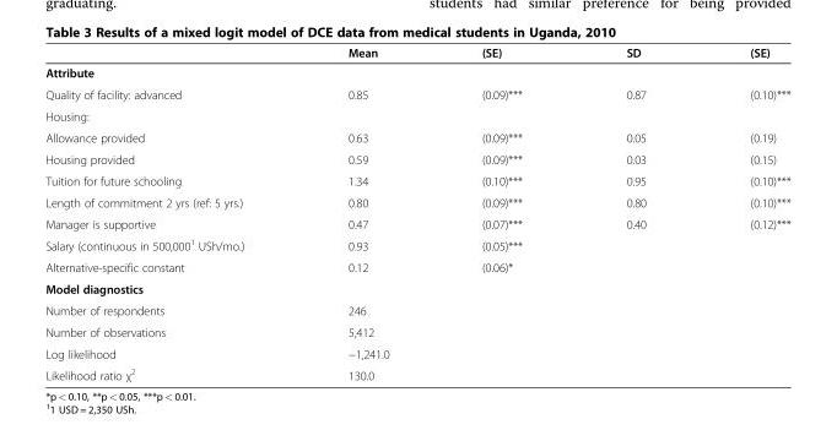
<table><thead><tr><td></td><td>Mean</td><td>(SE)</td><td>SD</td><td>(SE)</td></tr></thead><tbody><tr><td colspan="5">Attribute</td></tr><tr><td>Quality of facility: advanced</td><td>0.85</td><td>(0.09)***</td><td>0.87</td><td>(0.10)***</td></tr><tr><td colspan="5">Housing:</td></tr><tr><td>Allowance provided</td><td>0.63</td><td>(0.09)***</td><td>0.05</td><td>(0.19)</td></tr><tr><td>Housing provided</td><td>0.59</td><td>(0.09)***</td><td>0.03</td><td>(0.15)</td></tr><tr><td>Tuition for future schooling</td><td>1.34</td><td>(0.10)***</td><td>0.95</td><td>(0.10)***</td></tr><tr><td>Length of commitment 2 yrs (ref: 5 yrs.)</td><td>0.80</td><td>(0.09)***</td><td>0.80</td><td>(0.10)***</td></tr><tr><td>Manager is supportive</td><td>0.47</td><td>(0.07)***</td><td>0.40</td><td>(0.12)***</td></tr><tr><td>Salary (continuous in 500,000<sup>1</sup> USh/mo.)</td><td>0.93</td><td>(0.05)***</td><td></td><td></td></tr><tr><td>Alternative-specific constant</td><td>0.12</td><td>(0.06)*</td><td></td><td></td></tr><tr><td colspan="5">Model diagnostics</td></tr><tr><td>Number of respondents</td><td colspan="2">246</td><td></td><td></td></tr><tr><td>Number of observations</td><td colspan="2">5,412</td><td></td><td></td></tr><tr><td>Log likelihood</td><td colspan="2">−1,241.0</td><td></td><td></td></tr><tr><td>Likelihood ratio χ<sup>2</sup></td><td colspan="2">130.0</td><td></td><td></td></tr></tbody></table>